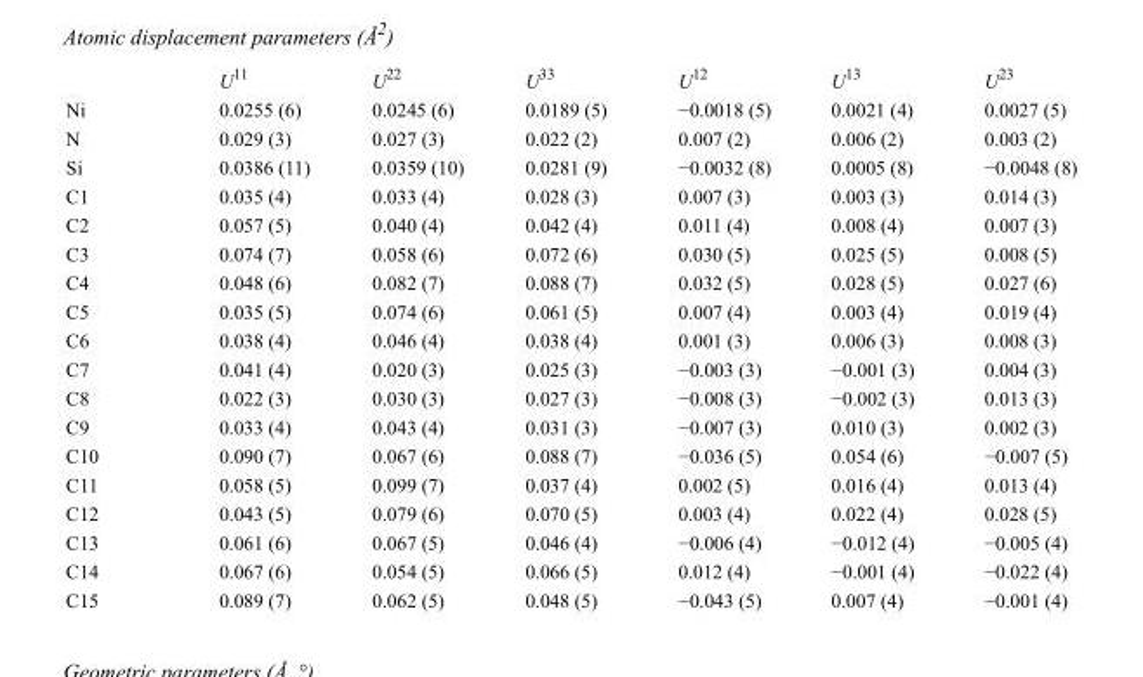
<table><thead><tr><td></td><td>U<sup>11</sup></td><td>U<sup>22</sup></td><td>U<sup>33</sup></td><td>U<sup>12</sup></td><td>U<sup>13</sup></td><td>U<sup>23</sup></td></tr></thead><tbody><tr><td>Ni</td><td>0.0255 (6)</td><td>0.0245 (6)</td><td>0.0189 (5)</td><td>−0.0018 (5)</td><td>0.0021 (4)</td><td>0.0027 (5)</td></tr><tr><td>N</td><td>0.029 (3)</td><td>0.027 (3)</td><td>0.022 (2)</td><td>0.007 (2)</td><td>0.006 (2)</td><td>0.003 (2)</td></tr><tr><td>Si</td><td>0.0386 (11)</td><td>0.0359 (10)</td><td>0.0281 (9)</td><td>−0.0032 (8)</td><td>0.0005 (8)</td><td>−0.0048 (8)</td></tr><tr><td>C1</td><td>0.035 (4)</td><td>0.033 (4)</td><td>0.028 (3)</td><td>0.007 (3)</td><td>0.003 (3)</td><td>0.014 (3)</td></tr><tr><td>C2</td><td>0.057 (5)</td><td>0.040 (4)</td><td>0.042 (4)</td><td>0.011 (4)</td><td>0.008 (4)</td><td>0.007 (3)</td></tr><tr><td>C3</td><td>0.074 (7)</td><td>0.058 (6)</td><td>0.072 (6)</td><td>0.030 (5)</td><td>0.025 (5)</td><td>0.008 (5)</td></tr><tr><td>C4</td><td>0.048 (6)</td><td>0.082 (7)</td><td>0.088 (7)</td><td>0.032 (5)</td><td>0.028 (5)</td><td>0.027 (6)</td></tr><tr><td>C5</td><td>0.035 (5)</td><td>0.074 (6)</td><td>0.061 (5)</td><td>0.007 (4)</td><td>0.003 (4)</td><td>0.019 (4)</td></tr><tr><td>C6</td><td>0.038 (4)</td><td>0.046 (4)</td><td>0.038 (4)</td><td>0.001 (3)</td><td>0.006 (3)</td><td>0.008 (3)</td></tr><tr><td>C7</td><td>0.041 (4)</td><td>0.020 (3)</td><td>0.025 (3)</td><td>−0.003 (3)</td><td>−0.001 (3)</td><td>0.004 (3)</td></tr><tr><td>C8</td><td>0.022 (3)</td><td>0.030 (3)</td><td>0.027 (3)</td><td>−0.008 (3)</td><td>−0.002 (3)</td><td>0.013 (3)</td></tr><tr><td>C9</td><td>0.033 (4)</td><td>0.043 (4)</td><td>0.031 (3)</td><td>−0.007 (3)</td><td>0.010 (3)</td><td>0.002 (3)</td></tr><tr><td>C10</td><td>0.090 (7)</td><td>0.067 (6)</td><td>0.088 (7)</td><td>−0.036 (5)</td><td>0.054 (6)</td><td>−0.007 (5)</td></tr><tr><td>C11</td><td>0.058 (5)</td><td>0.099 (7)</td><td>0.037 (4)</td><td>0.002 (5)</td><td>0.016 (4)</td><td>0.013 (4)</td></tr><tr><td>C12</td><td>0.043 (5)</td><td>0.079 (6)</td><td>0.070 (5)</td><td>0.003 (4)</td><td>0.022 (4)</td><td>0.028 (5)</td></tr><tr><td>C13</td><td>0.061 (6)</td><td>0.067 (5)</td><td>0.046 (4)</td><td>−0.006 (4)</td><td>−0.012 (4)</td><td>−0.005 (4)</td></tr><tr><td>C14</td><td>0.067 (6)</td><td>0.054 (5)</td><td>0.066 (5)</td><td>0.012 (4)</td><td>−0.001 (4)</td><td>−0.022 (4)</td></tr><tr><td>C15</td><td>0.089 (7)</td><td>0.062 (5)</td><td>0.048 (5)</td><td>−0.043 (5)</td><td>0.007 (4)</td><td>−0.001 (4)</td></tr></tbody></table>